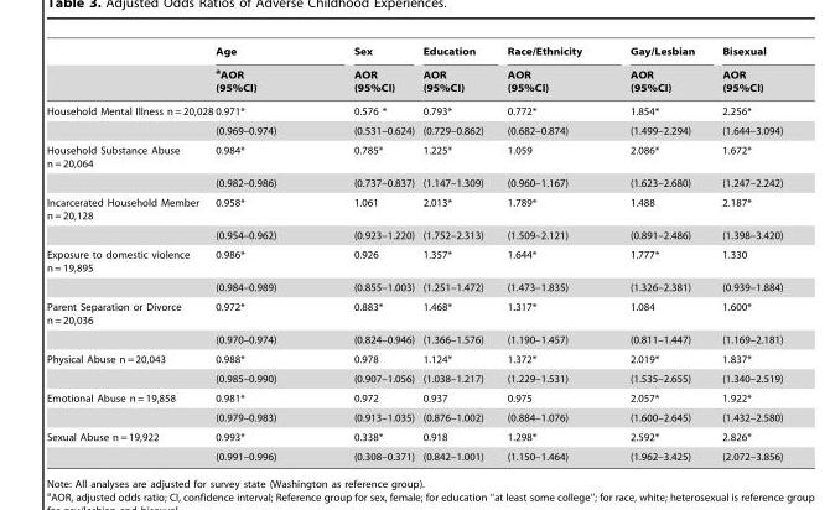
<table><thead><tr><td rowspan="2"></td><td rowspan="2">Age aAOR (95%CI)</td><td rowspan="2">Sex AOR (95%CI)</td><td rowspan="2">Education AOR (95%CI)</td><td rowspan="2">Race/Ethnicity AOR (95%CI)</td><td rowspan="2">Gay/Lesbian AOR (95%CI)</td><td rowspan="2">Bisexual AOR (95%CI)</td></tr><tr></tr></thead><tbody><tr><td rowspan="2">Household Mental Illness n = 20,028</td><td>0.971*</td><td>0.576 *</td><td>0.793*</td><td>0.772*</td><td>1.854*</td><td>2.256*</td></tr><tr><td>(0.969–0.974)</td><td>(0.531–0.624)</td><td>(0.729–0.862)</td><td>(0.682–0.874)</td><td>(1.499–2.294)</td><td>(1.644–3.094)</td></tr><tr><td rowspan="2">Household Substance Abuse n = 20,064</td><td>0.984*</td><td>0.785*</td><td>1.225*</td><td>1.059</td><td>2.086*</td><td>1.672*</td></tr><tr><td>(0.982–0.986)</td><td>(0.737–0.837)</td><td>(1.147–1.309)</td><td>(0.960–1.167)</td><td>(1.623–2.680)</td><td>(1.247–2.242)</td></tr><tr><td rowspan="2">Incarcerated Household Member n = 20,128</td><td>0.958*</td><td>1.061</td><td>2.013*</td><td>1.789*</td><td>1.488</td><td>2.187*</td></tr><tr><td>(0.954–0.962)</td><td>(0.923–1.220)</td><td>(1.752–2.313)</td><td>(1.509–2.121)</td><td>(0.891–2.486)</td><td>(1.398–3.420)</td></tr><tr><td rowspan="2">Exposure to domestic violence n = 19,895</td><td>0.986*</td><td>0.926</td><td>1.357*</td><td>1.644*</td><td>1.777*</td><td>1.330</td></tr><tr><td>(0.984–0.989)</td><td>(0.855–1.003)</td><td>(1.251–1.472)</td><td>(1.473–1.835)</td><td>(1.326–2.381)</td><td>(0.939–1.884)</td></tr><tr><td rowspan="2">Parent Separation or Divorce n = 20,036</td><td>0.972*</td><td>0.883*</td><td>1.468*</td><td>1.317*</td><td>1.084</td><td>1.600*</td></tr><tr><td>(0.970–0.974)</td><td>(0.824–0.946)</td><td>(1.366–1.576)</td><td>(1.190–1.457)</td><td>(0.811–1.447)</td><td>(1.169–2.181)</td></tr><tr><td rowspan="2">Physical Abuse n = 20,043</td><td>0.988*</td><td>0.978</td><td>1.124*</td><td>1.372*</td><td>2.019*</td><td>1.837*</td></tr><tr><td>(0.985–0.990)</td><td>(0.907–1.056)</td><td>(1.038–1.217)</td><td>(1.229–1.531)</td><td>(1.535–2.655)</td><td>(1.340–2.519)</td></tr><tr><td rowspan="2">Emotional Abuse n = 19,858</td><td>0.981*</td><td>0.972</td><td>0.937</td><td>0.975</td><td>2.057*</td><td>1.922*</td></tr><tr><td>(0.979–0.983)</td><td>(0.913–1.035)</td><td>(0.876–1.002)</td><td>(0.884–1.076)</td><td>(1.600–2.645)</td><td>(1.432–2.580)</td></tr><tr><td rowspan="2">Sexual Abuse n = 19,922</td><td>0.993*</td><td>0.338*</td><td>0.918</td><td>1.298*</td><td>2.592*</td><td>2.826*</td></tr><tr><td>(0.991–0.996)</td><td>(0.308–0.371)</td><td>(0.842–1.001)</td><td>(1.150–1.464)</td><td>(1.962–3.425)</td><td>(2.072–3.856)</td></tr></tbody></table>